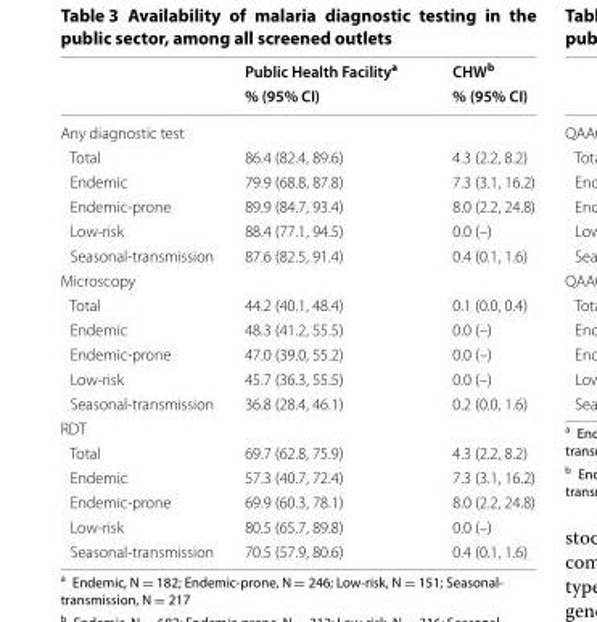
<table><thead><tr><td rowspan="2"></td><td rowspan="2">Public Health Facility<sup>a</sup> % (95% CI)</td><td rowspan="2">CHW<sup>b</sup> % (95% CI)</td></tr><tr></tr></thead><tbody><tr><td colspan="3">Any diagnostic test</td></tr><tr><td>Total</td><td>86.4 (82.4, 89.6)</td><td>4.3 (2.2, 8.2)</td></tr><tr><td>Endemic</td><td>79.9 (68.8, 87.8)</td><td>7.3 (3.1, 16.2)</td></tr><tr><td>Endemic-prone</td><td>89.9 (84.7, 93.4)</td><td>8.0 (2.2, 24.8)</td></tr><tr><td>Low-risk</td><td>88.4 (77.1, 94.5)</td><td>0.0 (–)</td></tr><tr><td>Seasonal-transmission</td><td>87.6 (82.5, 91.4)</td><td>0.4 (0.1, 1.6)</td></tr><tr><td colspan="3">Microscopy</td></tr><tr><td>Total</td><td>44.2 (40.1, 48.4)</td><td>0.1 (0.0, 0.4)</td></tr><tr><td>Endemic</td><td>48.3 (41.2, 55.5)</td><td>0.0 (–)</td></tr><tr><td>Endemic-prone</td><td>47.0 (39.0, 55.2)</td><td>0.0 (–)</td></tr><tr><td>Low-risk</td><td>45.7 (36.3, 55.5)</td><td>0.0 (–)</td></tr><tr><td>Seasonal-transmission</td><td>36.8 (28.4, 46.1)</td><td>0.2 (0.0, 1.6)</td></tr><tr><td colspan="3">RDT</td></tr><tr><td>Total</td><td>69.7 (62.8, 75.9)</td><td>4.3 (2.2, 8.2)</td></tr><tr><td>Endemic</td><td>57.3 (40.7, 72.4)</td><td>7.3 (3.1, 16.2)</td></tr><tr><td>Endemic-prone</td><td>69.9 (60.3, 78.1)</td><td>8.0 (2.2, 24.8)</td></tr><tr><td>Low-risk</td><td>80.5 (65.7, 89.8)</td><td>0.0 (–)</td></tr><tr><td>Seasonal-transmission</td><td>70.5 (57.9, 80.6)</td><td>0.4 (0.1, 1.6)</td></tr></tbody></table>